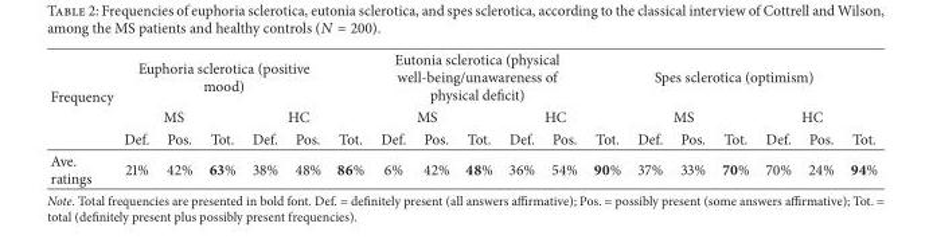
<table><thead><tr><td rowspan="3">Frequency</td><td colspan="6">Euphoria sclerotica (positive mood)</td><td colspan="6">Eutonia sclerotica (physical well-being/unawareness of physical deficit)</td><td colspan="6">Spes sclerotica (optimism)</td></tr><tr><td colspan="3">MS</td><td colspan="3">HC</td><td colspan="3">MS</td><td colspan="3">HC</td><td colspan="3">MS</td><td colspan="3">HC</td></tr><tr><td>Def.</td><td>Pos.</td><td>Tot.</td><td>Def.</td><td>Pos.</td><td>Tot.</td><td>Def.</td><td>Pos.</td><td>Tot.</td><td>Def.</td><td>Pos.</td><td>Tot.</td><td>Def.</td><td>Pos.</td><td>Tot.</td><td>Def.</td><td>Pos.</td><td>Tot.</td></tr></thead><tbody><tr><td>Ave. ratings</td><td>21%</td><td>42%</td><td>63%</td><td>38%</td><td>48%</td><td>86%</td><td>6%</td><td>42%</td><td>48%</td><td>36%</td><td>54%</td><td>90%</td><td>37%</td><td>33%</td><td>70%</td><td>70%</td><td>24%</td><td>94%</td></tr></tbody></table>